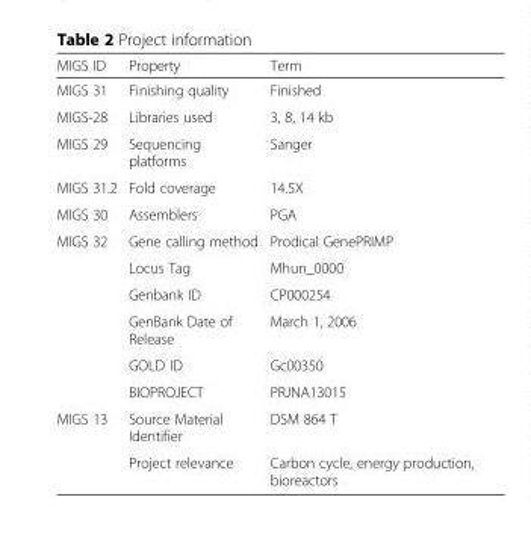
<table><thead><tr><td>MIGS ID</td><td>Property</td><td>Term</td></tr></thead><tbody><tr><td>MIGS 31</td><td>Finishing quality</td><td>Finished</td></tr><tr><td>MIGS-28</td><td>Libraries used</td><td>3, 8, 14 kb</td></tr><tr><td>MIGS 29</td><td>Sequencing platforms</td><td>Sanger</td></tr><tr><td>MIGS 31.2</td><td>Fold coverage</td><td>14.5X</td></tr><tr><td>MIGS 30</td><td>Assemblers</td><td>PGA</td></tr><tr><td rowspan="6">MIGS 32</td><td>Gene calling method</td><td>Prodical GenePRIMP</td></tr><tr><td>Locus Tag</td><td>Mhun_0000</td></tr><tr><td>Genbank ID</td><td>CP000254</td></tr><tr><td>GenBank Date of Release</td><td>March 1, 2006</td></tr><tr><td>GOLD ID</td><td>Gc00350</td></tr><tr><td>BIOPROJECT</td><td>PRJNA13015</td></tr><tr><td rowspan="2">MIGS 13</td><td>Source Material Identifier</td><td>DSM 864 T</td></tr><tr><td>Project relevance</td><td>Carbon cycle, energy production, bioreactors</td></tr></tbody></table>